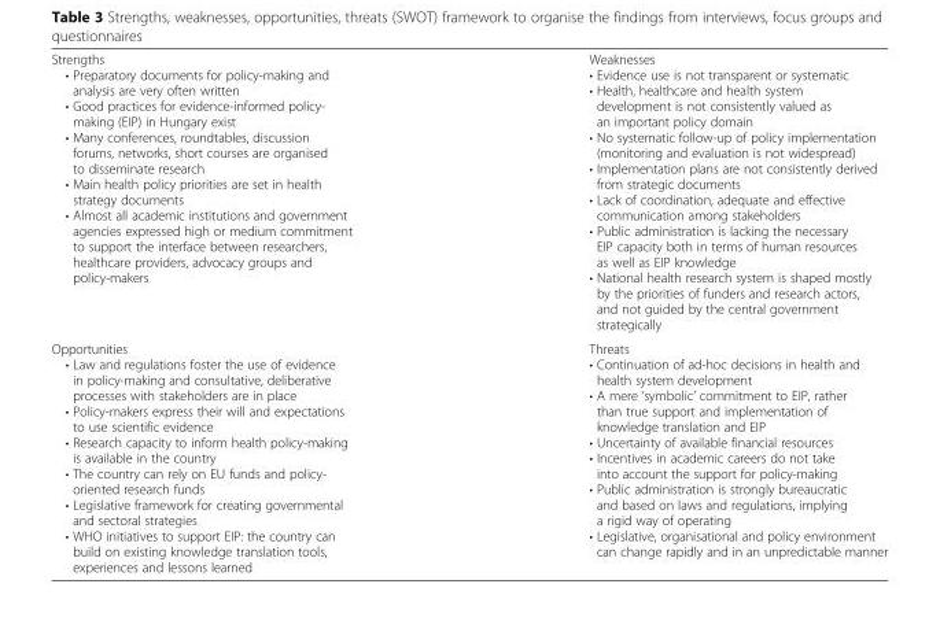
<table><tbody><tr><td>Strengths • Preparatory documents for policy-making and analysis are very often written • Good practices for evidence-informed policy- making (EIP) in Hungary exist • Many conferences, roundtables, discussion forums, networks, short courses are organised to disseminate research • Main health policy priorities are set in health strategy documents • Almost all academic institutions and government agencies expressed high or medium commitment to support the interface between researchers, healthcare providers, advocacy groups and policy-makers</td><td>Weaknesses • Evidence use is not transparent or systematic • Health, healthcare and health system development is not consistently valued as an important policy domain • No systematic follow-up of policy implementation (monitoring and evaluation is not widespread) • Implementation plans are not consistently derived from strategic documents • Lack of coordination, adequate and effective communication among stakeholders • Public administration is lacking the necessary EIP capacity both in terms of human resources as well as EIP knowledge • National health research system is shaped mostly by the priorities of funders and research actors, and not guided by the central government strategically</td></tr><tr><td>Opportunities • Law and regulations foster the use of evidence in policy-making and consultative, deliberative processes with stakeholders are in place • Policy-makers express their will and expectations to use scientific evidence • Research capacity to inform health policy-making is available in the country • The country can rely on EU funds and policy- oriented research funds • Legislative framework for creating governmental and sectoral strategies • WHO initiatives to support EIP: the country can build on existing knowledge translation tools, experiences and lessons learned</td><td>Threats • Continuation of ad-hoc decisions in health and health system development • A mere ‘symbolic’ commitment to EIP, rather than true support and implementation of knowledge translation and EIP • Uncertainty of available financial resources • Incentives in academic careers do not take into account the support for policy-making • Public administration is strongly bureaucratic and based on laws and regulations, implying a rigid way of operating • Legislative, organisational and policy environment can change rapidly and in an unpredictable manner</td></tr></tbody></table>